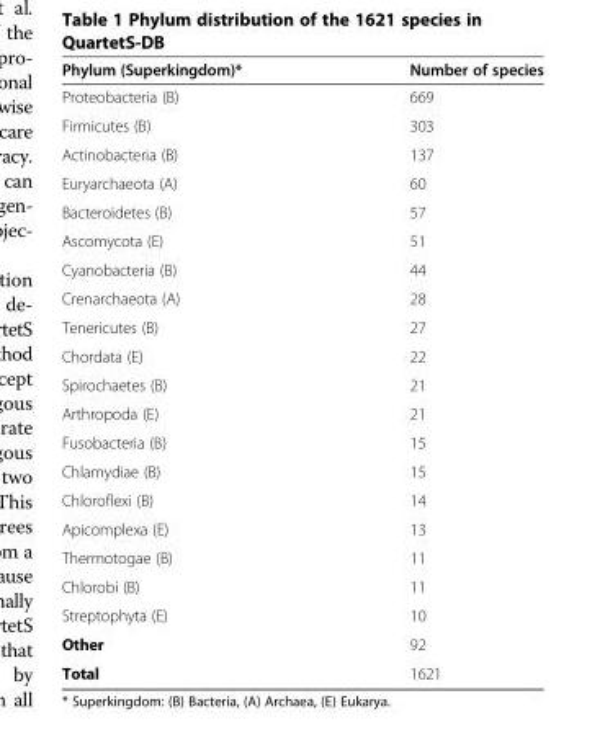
<table><thead><tr><td>Phylum (Superkingdom)*</td><td>Number of species</td></tr></thead><tbody><tr><td>Proteobacteria (B)</td><td>669</td></tr><tr><td>Firmicutes (B)</td><td>303</td></tr><tr><td>Actinobacteria (B)</td><td>137</td></tr><tr><td>Euryarchaeota (A)</td><td>60</td></tr><tr><td>Bacteroidetes (B)</td><td>57</td></tr><tr><td>Ascomycota (E)</td><td>51</td></tr><tr><td>Cyanobacteria (B)</td><td>44</td></tr><tr><td>Crenarchaeota (A)</td><td>28</td></tr><tr><td>Tenericutes (B)</td><td>27</td></tr><tr><td>Chordata (E)</td><td>22</td></tr><tr><td>Spirochaetes (B)</td><td>21</td></tr><tr><td>Arthropoda (E)</td><td>21</td></tr><tr><td>Fusobacteria (B)</td><td>15</td></tr><tr><td>Chlamydiae (B)</td><td>15</td></tr><tr><td>Chloroflexi (B)</td><td>14</td></tr><tr><td>Apicomplexa (E)</td><td>13</td></tr><tr><td>Thermotogae (B)</td><td>11</td></tr><tr><td>Chlorobi (B)</td><td>11</td></tr><tr><td>Streptophyta (E)</td><td>10</td></tr><tr><td>Other</td><td>92</td></tr><tr><td>Total</td><td>1621</td></tr></tbody></table>